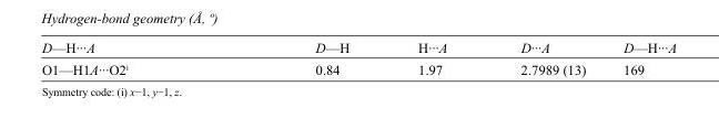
<table><tbody><tr><td>D—H···A</td><td>D—H</td><td>H···A</td><td>D···A</td><td>D—H···A</td></tr><tr><td>O1—H1A···O2<sup>i</sup></td><td>0.84</td><td>1.97</td><td>2.7989 (13)</td><td>169</td></tr></tbody></table>